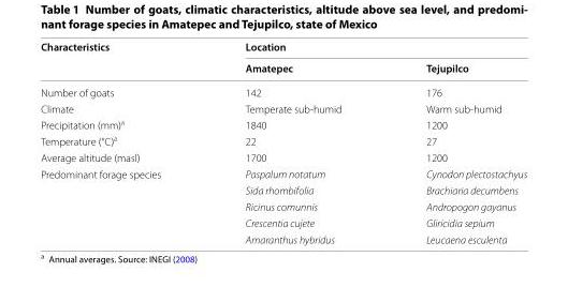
<table><thead><tr><td rowspan="2">Characteristics</td><td colspan="2">Location</td></tr><tr><td>Amatepec</td><td>Tejupilco</td></tr></thead><tbody><tr><td>Number of goats</td><td>142</td><td>176</td></tr><tr><td>Climate</td><td>Temperate sub‑humid</td><td>Warm sub‑humid</td></tr><tr><td>Precipitation (mm)<sup>a</sup></td><td>1840</td><td>1200</td></tr><tr><td>Temperature (°C)<sup>a</sup></td><td>22</td><td>27</td></tr><tr><td>Average altitude (masl)</td><td>1700</td><td>1200</td></tr><tr><td rowspan="5">Predominant forage species</td><td>Paspalum notatum</td><td>Cynodon plectostachyus</td></tr><tr><td>Sida rhombifolia</td><td>Brachiaria decumbens</td></tr><tr><td>Ricinus comunnis</td><td>Andropogon gayanus</td></tr><tr><td>Crescentia cujete</td><td>Gliricidia sepium</td></tr><tr><td>Amaranthus hybridus</td><td>Leucaena esculenta</td></tr></tbody></table>